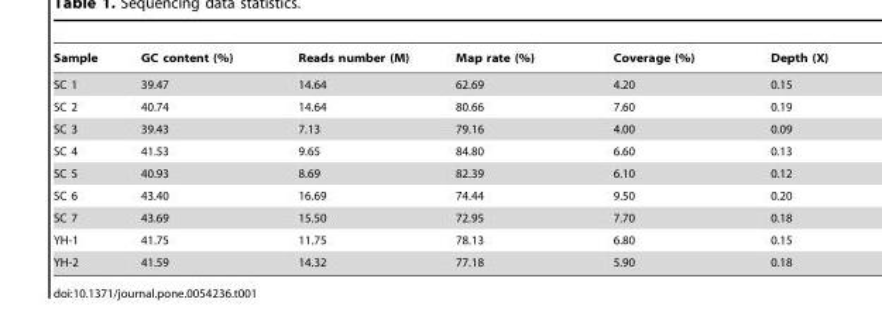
<table><thead><tr><td>Sample</td><td>GC content (%)</td><td>Reads number (M)</td><td>Map rate (%)</td><td>Coverage (%)</td><td>Depth (X)</td></tr></thead><tbody><tr><td>SC 1</td><td>39.47</td><td>14.64</td><td>62.69</td><td>4.20</td><td>0.15</td></tr><tr><td>SC 2</td><td>40.74</td><td>14.64</td><td>80.66</td><td>7.60</td><td>0.19</td></tr><tr><td>SC 3</td><td>39.43</td><td>7.13</td><td>79.16</td><td>4.00</td><td>0.09</td></tr><tr><td>SC 4</td><td>41.53</td><td>9.65</td><td>84.80</td><td>6.60</td><td>0.13</td></tr><tr><td>SC 5</td><td>40.93</td><td>8.69</td><td>82.39</td><td>6.10</td><td>0.12</td></tr><tr><td>SC 6</td><td>43.40</td><td>16.69</td><td>74.44</td><td>9.50</td><td>0.20</td></tr><tr><td>SC 7</td><td>43.69</td><td>15.50</td><td>72.95</td><td>7.70</td><td>0.18</td></tr><tr><td>YH-1</td><td>41.75</td><td>11.75</td><td>78.13</td><td>6.80</td><td>0.15</td></tr><tr><td>YH-2</td><td>41.59</td><td>14.32</td><td>77.18</td><td>5.90</td><td>0.18</td></tr></tbody></table>